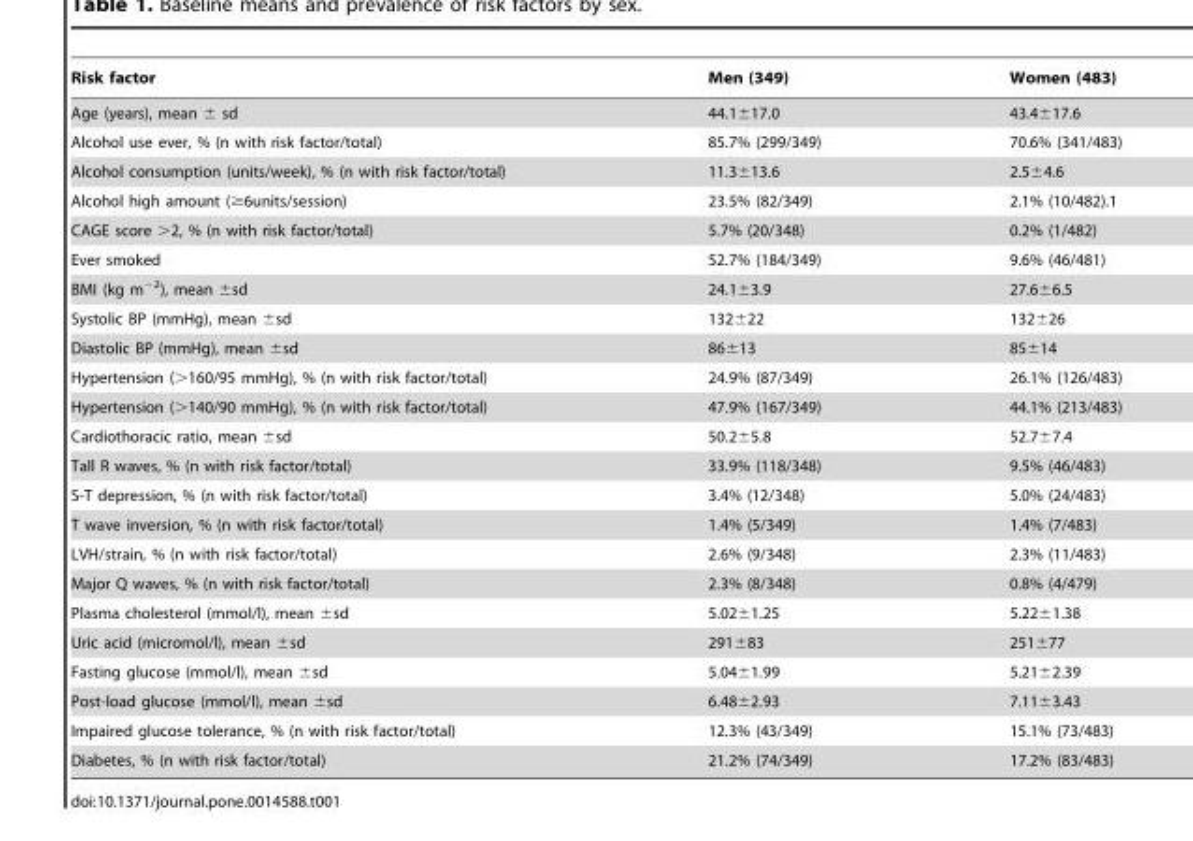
<table><thead><tr><td>Risk factor</td><td>Men (349)</td><td>Women (483)</td></tr></thead><tbody><tr><td>Age (years), mean ± sd</td><td>44.1±17.0</td><td>43.4±17.6</td></tr><tr><td>Alcohol use ever, % (n with risk factor/total)</td><td>85.7% (299/349)</td><td>70.6% (341/483)</td></tr><tr><td>Alcohol consumption (units/week), % (n with risk factor/total)</td><td>11.3±13.6</td><td>2.5±4.6</td></tr><tr><td>Alcohol high amount (≥6units/session)</td><td>23.5% (82/349)</td><td>2.1% (10/482).1</td></tr><tr><td>CAGE score &gt;2, % (n with risk factor/total)</td><td>5.7% (20/348)</td><td>0.2% (1/482)</td></tr><tr><td>Ever smoked</td><td>52.7% (184/349)</td><td>9.6% (46/481)</td></tr><tr><td>BMI (kg m<sup>−2</sup>), mean ±sd</td><td>24.1±3.9</td><td>27.6±6.5</td></tr><tr><td>Systolic BP (mmHg), mean ±sd</td><td>132±22</td><td>132±26</td></tr><tr><td>Diastolic BP (mmHg), mean ±sd</td><td>86±13</td><td>85±14</td></tr><tr><td>Hypertension (&gt;160/95 mmHg), % (n with risk factor/total)</td><td>24.9% (87/349)</td><td>26.1% (126/483)</td></tr><tr><td>Hypertension (&gt;140/90 mmHg), % (n with risk factor/total)</td><td>47.9% (167/349)</td><td>44.1% (213/483)</td></tr><tr><td>Cardiothoracic ratio, mean ±sd</td><td>50.2±5.8</td><td>52.7±7.4</td></tr><tr><td>Tall R waves, % (n with risk factor/total)</td><td>33.9% (118/348)</td><td>9.5% (46/483)</td></tr><tr><td>S-T depression, % (n with risk factor/total)</td><td>3.4% (12/348)</td><td>5.0% (24/483)</td></tr><tr><td>T wave inversion, % (n with risk factor/total)</td><td>1.4% (5/349)</td><td>1.4% (7/483)</td></tr><tr><td>LVH/strain, % (n with risk factor/total)</td><td>2.6% (9/348)</td><td>2.3% (11/483)</td></tr><tr><td>Major Q waves, % (n with risk factor/total)</td><td>2.3% (8/348)</td><td>0.8% (4/479)</td></tr><tr><td>Plasma cholesterol (mmol/l), mean ±sd</td><td>5.02±1.25</td><td>5.22±1.38</td></tr><tr><td>Uric acid (micromol/l), mean ±sd</td><td>291±83</td><td>251±77</td></tr><tr><td>Fasting glucose (mmol/l), mean ±sd</td><td>5.04±1.99</td><td>5.21±2.39</td></tr><tr><td>Post-load glucose (mmol/l), mean ±sd</td><td>6.48±2.93</td><td>7.11±3.43</td></tr><tr><td>Impaired glucose tolerance, % (n with risk factor/total)</td><td>12.3% (43/349)</td><td>15.1% (73/483)</td></tr><tr><td>Diabetes, % (n with risk factor/total)</td><td>21.2% (74/349)</td><td>17.2% (83/483)</td></tr></tbody></table>